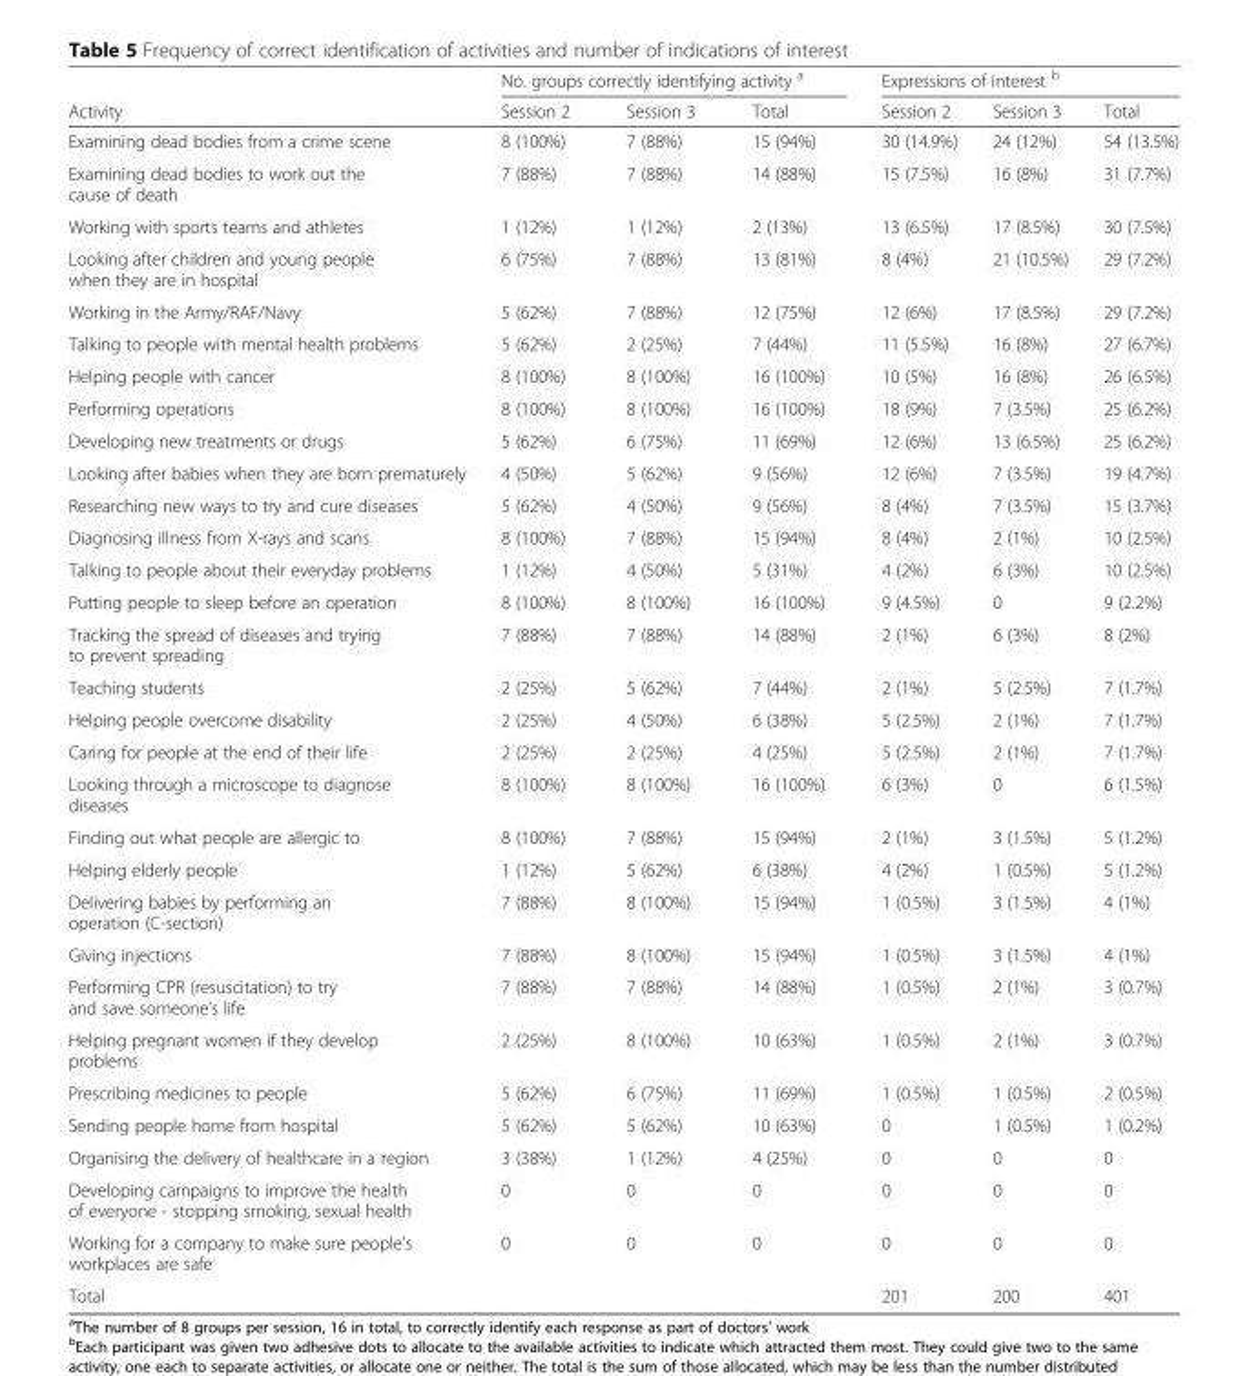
<table><thead><tr><td rowspan="2">Activity</td><td colspan="3">No. groups correctly identifying activity <sup>a</sup></td><td colspan="3">Expressions of interest <sup>b</sup></td></tr><tr><td>Session 2</td><td>Session 3</td><td>Total</td><td>Session 2</td><td>Session 3</td><td>Total</td></tr></thead><tbody><tr><td>Examining dead bodies from a crime scene</td><td>8 (100%)</td><td>7 (88%)</td><td>15 (94%)</td><td>30 (14.9%)</td><td>24 (12%)</td><td>54 (13.5%)</td></tr><tr><td>Examining dead bodies to work out the cause of death</td><td>7 (88%)</td><td>7 (88%)</td><td>14 (88%)</td><td>15 (7.5%)</td><td>16 (8%)</td><td>31 (7.7%)</td></tr><tr><td>Working with sports teams and athletes</td><td>1 (12%)</td><td>1 (12%)</td><td>2 (13%)</td><td>13 (6.5%)</td><td>17 (8.5%)</td><td>30 (7.5%)</td></tr><tr><td>Looking after children and young people when they are in hospital</td><td>6 (75%)</td><td>7 (88%)</td><td>13 (81%)</td><td>8 (4%)</td><td>21 (10.5%)</td><td>29 (7.2%)</td></tr><tr><td>Working in the Army/RAF/Navy</td><td>5 (62%)</td><td>7 (88%)</td><td>12 (75%)</td><td>12 (6%)</td><td>17 (8.5%)</td><td>29 (7.2%)</td></tr><tr><td>Talking to people with mental health problems</td><td>5 (62%)</td><td>2 (25%)</td><td>7 (44%)</td><td>11 (5.5%)</td><td>16 (8%)</td><td>27 (6.7%)</td></tr><tr><td>Helping people with cancer</td><td>8 (100%)</td><td>8 (100%)</td><td>16 (100%)</td><td>10 (5%)</td><td>16 (8%)</td><td>26 (6.5%)</td></tr><tr><td>Performing operations</td><td>8 (100%)</td><td>8 (100%)</td><td>16 (100%)</td><td>18 (9%)</td><td>7 (3.5%)</td><td>25 (6.2%)</td></tr><tr><td>Developing new treatments or drugs</td><td>5 (62%)</td><td>6 (75%)</td><td>11 (69%)</td><td>12 (6%)</td><td>13 (6.5%)</td><td>25 (6.2%)</td></tr><tr><td>Looking after babies when they are born prematurely</td><td>4 (50%)</td><td>5 (62%)</td><td>9 (56%)</td><td>12 (6%)</td><td>7 (3.5%)</td><td>19 (4.7%)</td></tr><tr><td>Researching new ways to try and cure diseases</td><td>5 (62%)</td><td>4 (50%)</td><td>9 (56%)</td><td>8 (4%)</td><td>7 (3.5%)</td><td>15 (3.7%)</td></tr><tr><td>Diagnosing illness from X-rays and scans</td><td>8 (100%)</td><td>7 (88%)</td><td>15 (94%)</td><td>8 (4%)</td><td>2 (1%)</td><td>10 (2.5%)</td></tr><tr><td>Talking to people about their everyday problems</td><td>1 (12%)</td><td>4 (50%)</td><td>5 (31%)</td><td>4 (2%)</td><td>6 (3%)</td><td>10 (2.5%)</td></tr><tr><td>Putting people to sleep before an operation</td><td>8 (100%)</td><td>8 (100%)</td><td>16 (100%)</td><td>9 (4.5%)</td><td>0</td><td>9 (2.2%)</td></tr><tr><td>Tracking the spread of diseases and trying to prevent spreading</td><td>7 (88%)</td><td>7 (88%)</td><td>14 (88%)</td><td>2 (1%)</td><td>6 (3%)</td><td>8 (2%)</td></tr><tr><td>Teaching students</td><td>2 (25%)</td><td>5 (62%)</td><td>7 (44%)</td><td>2 (1%)</td><td>5 (2.5%)</td><td>7 (1.7%)</td></tr><tr><td>Helping people overcome disability</td><td>2 (25%)</td><td>4 (50%)</td><td>6 (38%)</td><td>5 (2.5%)</td><td>2 (1%)</td><td>7 (1.7%)</td></tr><tr><td>Caring for people at the end of their life</td><td>2 (25%)</td><td>2 (25%)</td><td>4 (25%)</td><td>5 (2.5%)</td><td>2 (1%)</td><td>7 (1.7%)</td></tr><tr><td>Looking through a microscope to diagnose diseases</td><td>8 (100%)</td><td>8 (100%)</td><td>16 (100%)</td><td>6 (3%)</td><td>0</td><td>6 (1.5%)</td></tr><tr><td>Finding out what people are allergic to</td><td>8 (100%)</td><td>7 (88%)</td><td>15 (94%)</td><td>2 (1%)</td><td>3 (1.5%)</td><td>5 (1.2%)</td></tr><tr><td>Helping elderly people</td><td>1 (12%)</td><td>5 (62%)</td><td>6 (38%)</td><td>4 (2%)</td><td>1 (0.5%)</td><td>5 (1.2%)</td></tr><tr><td>Delivering babies by performing an operation (C-section)</td><td>7 (88%)</td><td>8 (100%)</td><td>15 (94%)</td><td>1 (0.5%)</td><td>3 (1.5%)</td><td>4 (1%)</td></tr><tr><td>Giving injections</td><td>7 (88%)</td><td>8 (100%)</td><td>15 (94%)</td><td>1 (0.5%)</td><td>3 (1.5%)</td><td>4 (1%)</td></tr><tr><td>Performing CPR (resuscitation) to try and save someone’s life</td><td>7 (88%)</td><td>7 (88%)</td><td>14 (88%)</td><td>1 (0.5%)</td><td>2 (1%)</td><td>3 (0.7%)</td></tr><tr><td>Helping pregnant women if they develop problems</td><td>2 (25%)</td><td>8 (100%)</td><td>10 (63%)</td><td>1 (0.5%)</td><td>2 (1%)</td><td>3 (0.7%)</td></tr><tr><td>Prescribing medicines to people</td><td>5 (62%)</td><td>6 (75%)</td><td>11 (69%)</td><td>1 (0.5%)</td><td>1 (0.5%)</td><td>2 (0.5%)</td></tr><tr><td>Sending people home from hospital</td><td>5 (62%)</td><td>5 (62%)</td><td>10 (63%)</td><td>0</td><td>1 (0.5%)</td><td>1 (0.2%)</td></tr><tr><td>Organising the delivery of healthcare in a region</td><td>3 (38%)</td><td>1 (12%)</td><td>4 (25%)</td><td>0</td><td>0</td><td>0</td></tr><tr><td>Developing campaigns to improve the health of everyone - stopping smoking, sexual health</td><td>0</td><td>0</td><td>0</td><td>0</td><td>0</td><td>0</td></tr><tr><td>Working for a company to make sure people’s workplaces are safe</td><td>0</td><td>0</td><td>0</td><td>0</td><td>0</td><td>0</td></tr><tr><td>Total</td><td></td><td></td><td></td><td>201</td><td>200</td><td>401</td></tr></tbody></table>